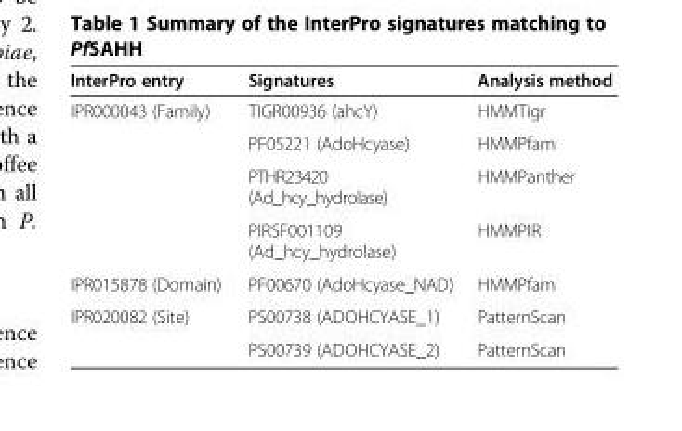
<table><thead><tr><td>InterPro entry</td><td>Signatures</td><td>Analysis method</td></tr></thead><tbody><tr><td rowspan="4">IPR000043 (Family)</td><td>TIGR00936 (ahcY)</td><td>HMMTigr</td></tr><tr><td>PF05221 (AdoHcyase)</td><td>HMMPfam</td></tr><tr><td>PTHR23420 (Ad_hcy_hydrolase)</td><td>HMMPanther</td></tr><tr><td>PIRSF001109 (Ad_hcy_hydrolase)</td><td>HMMPIR</td></tr><tr><td>IPR015878 (Domain)</td><td>PF00670 (AdoHcyase_NAD)</td><td>HMMPfam</td></tr><tr><td rowspan="2">IPR020082 (Site)</td><td>PS00738 (ADOHCYASE_1)</td><td>PatternScan</td></tr><tr><td>PS00739 (ADOHCYASE_2)</td><td>PatternScan</td></tr></tbody></table>